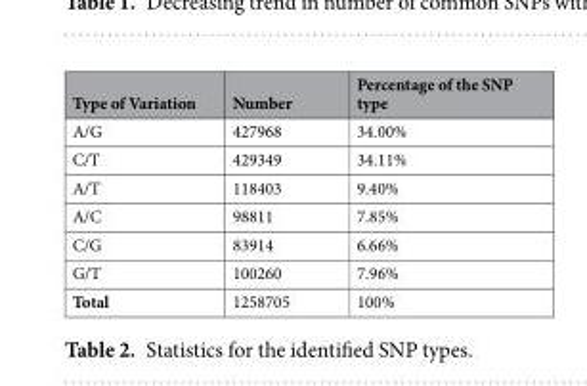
<table><thead><tr><td>Type of Variation</td><td>Number</td><td>Percentage of the SNP type</td></tr></thead><tbody><tr><td>A/G</td><td>427968</td><td>34.00%</td></tr><tr><td>C/T</td><td>429349</td><td>34.11%</td></tr><tr><td>A/T</td><td>118403</td><td>9.40%</td></tr><tr><td>A/C</td><td>98811</td><td>7.85%</td></tr><tr><td>C/G</td><td>83914</td><td>6.66%</td></tr><tr><td>G/T</td><td>100260</td><td>7.96%</td></tr><tr><td>Total</td><td>1258705</td><td>100%</td></tr></tbody></table>